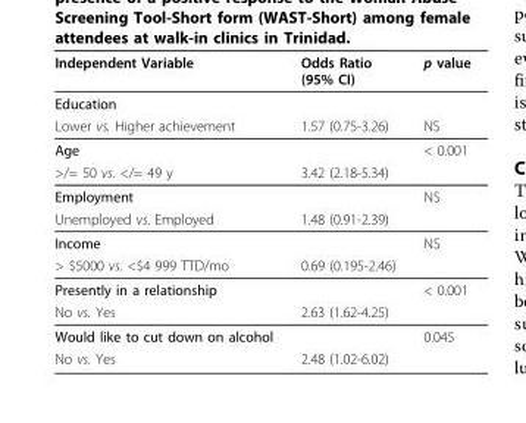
<table><thead><tr><td>Independent Variable</td><td>Odds Ratio (95% CI)</td><td>p value</td></tr></thead><tbody><tr><td colspan="3">Education</td></tr><tr><td>Lower vs. Higher achievement</td><td>1.57 (0.75-3.26)</td><td>NS</td></tr><tr><td>Age</td><td></td><td>&lt; 0.001</td></tr><tr><td>&gt;/= 50 vs. &lt;/= 49 y</td><td>3.42 (2.18-5.34)</td><td></td></tr><tr><td>Employment</td><td></td><td>NS</td></tr><tr><td>Unemployed vs. Employed</td><td>1.48 (0.91-2.39)</td><td></td></tr><tr><td>Income</td><td></td><td>NS</td></tr><tr><td>&gt; $5000 vs. &lt;$4 999 TTD/mo</td><td>0.69 (0.195-2.46)</td><td></td></tr><tr><td>Presently in a relationship</td><td></td><td>&lt; 0.001</td></tr><tr><td>No vs. Yes</td><td>2.63 (1.62-4.25)</td><td></td></tr><tr><td>Would like to cut down on alcohol</td><td></td><td>0.045</td></tr><tr><td>No vs. Yes</td><td>2.48 (1.02-6.02)</td><td></td></tr></tbody></table>